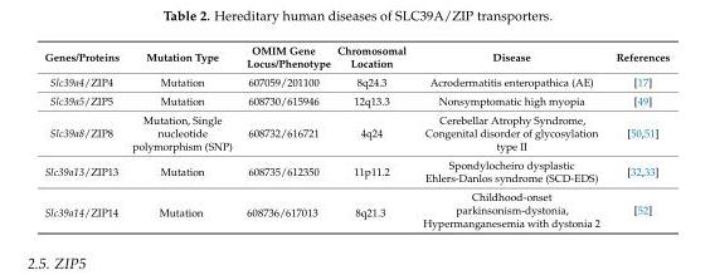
<table><thead><tr><td>Genes/Proteins</td><td>Mutation Type</td><td>OMIM Gene Locus/Phenotype</td><td>Chromosomal Location</td><td>Disease</td><td>References</td></tr></thead><tbody><tr><td>Slc39a4/ZIP4</td><td>Mutation</td><td>607059/201100</td><td>8q24.3</td><td>Acrodermatitis enteropathica (AE)</td><td>[17]</td></tr><tr><td>Slc39a5/ZIP5</td><td>Mutation</td><td>608730/615946</td><td>12q13.3</td><td>Nonsymptomatic high myopia</td><td>[49]</td></tr><tr><td>Slc39a8/ZIP8</td><td>Mutation, Single nucleotide polymorphism (SNP)</td><td>608732/616721</td><td>4q24</td><td>Cerebellar Atrophy Syndrome, Congenital disorder of glycosylation type II</td><td>[50,51]</td></tr><tr><td>Slc39a13/ZIP13</td><td>Mutation</td><td>608735/612350</td><td>11p11.2</td><td>Spondylocheiro dysplastic Ehlers-Danlos syndrome (SCD-EDS)</td><td>[32,33]</td></tr><tr><td>Slc39a14/ZIP14</td><td>Mutation</td><td>608736/617013</td><td>8q21.3</td><td>Childhood-onset parkinsonism-dystonia, Hypermanganesemia with dystonia 2</td><td>[52]</td></tr></tbody></table>